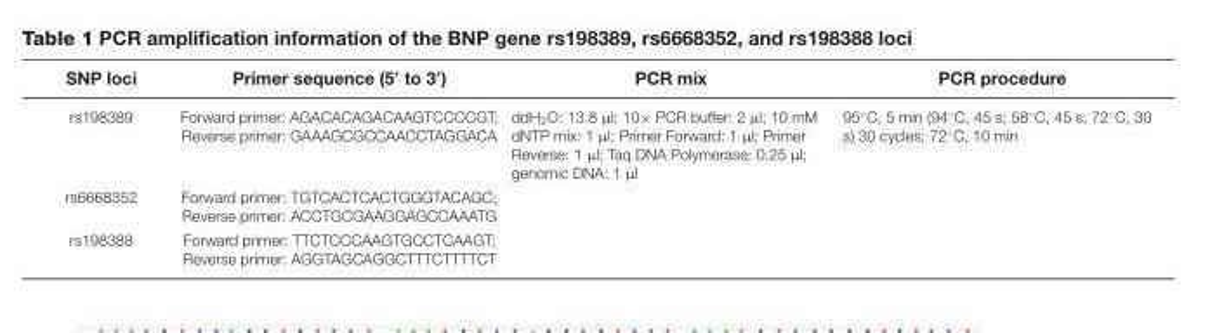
<table><thead><tr><td>SNP loci</td><td>Primer sequence (5′ to 3′)</td><td>PCR mix</td><td>PCR procedure</td></tr></thead><tbody><tr><td>rs198389</td><td>Forward primer: AGACACAGACAAGTCCCCGT; Reverse primer: GAAAGCGCCAACCTAGGACA</td><td>ddH<sub>2</sub>O: 13.8 μl; 10× PCR buffer: 2 μl; 10 mM dNTP mix: 1 μl; Primer Forward: 1 μl; Primer Reverse: 1 μl; Taq DNA Polymerase: 0.25 μl; genomic DNA: 1 μl</td><td>95◦C, 5 min (94◦C, 45 s; 58◦C, 45 s; 72◦C, 30 s) 30 cycles; 72◦C, 10 min</td></tr><tr><td>rs6668352</td><td>Forward primer: TGTCACTCACTGGGTACAGC; Reverse primer: ACCTGCGAAGGAGCCAAATG</td><td></td><td></td></tr><tr><td>rs198388</td><td>Forward primer: TTCTCCCAAGTGCCTCAAGT; Reverse primer: AGGTAGCAGGCTTTCTTTTCT</td><td></td><td></td></tr></tbody></table>